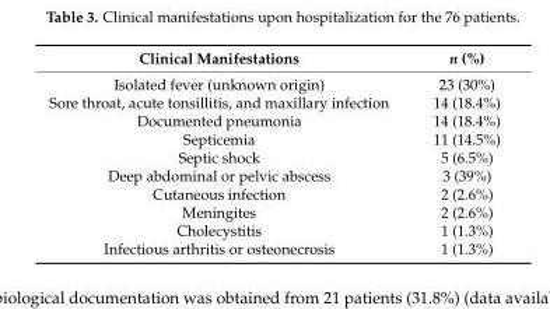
<table><thead><tr><td>Clinical Manifestations</td><td>n (%)</td></tr></thead><tbody><tr><td>Isolated fever (unknown origin)</td><td>23 (30%)</td></tr><tr><td>Sore throat, acute tonsillitis, and maxillary infection</td><td>14 (18.4%)</td></tr><tr><td>Documented pneumonia</td><td>14 (18.4%)</td></tr><tr><td>Septicemia</td><td>11 (14.5%)</td></tr><tr><td>Septic shock</td><td>5 (6.5%)</td></tr><tr><td>Deep abdominal or pelvic abscess</td><td>3 (39%)</td></tr><tr><td>Cutaneous infection</td><td>2 (2.6%)</td></tr><tr><td>Meningites</td><td>2 (2.6%)</td></tr><tr><td>Cholecystitis</td><td>1 (1.3%)</td></tr><tr><td>Infectious arthritis or osteonecrosis</td><td>1 (1.3%)</td></tr></tbody></table>